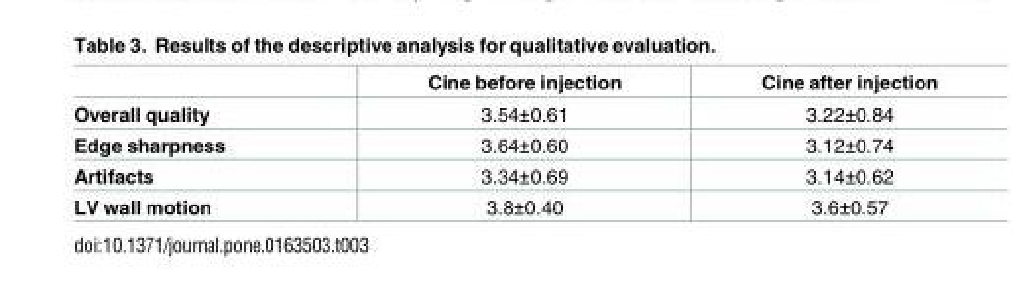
<table><thead><tr><td></td><td>Cine before injection</td><td>Cine after injection</td></tr></thead><tbody><tr><td>Overall quality</td><td>3.54±0.61</td><td>3.22±0.84</td></tr><tr><td>Edge sharpness</td><td>3.64±0.60</td><td>3.12±0.74</td></tr><tr><td>Artifacts</td><td>3.34±0.69</td><td>3.14±0.62</td></tr><tr><td>LV wall motion</td><td>3.8±0.40</td><td>3.6±0.57</td></tr></tbody></table>